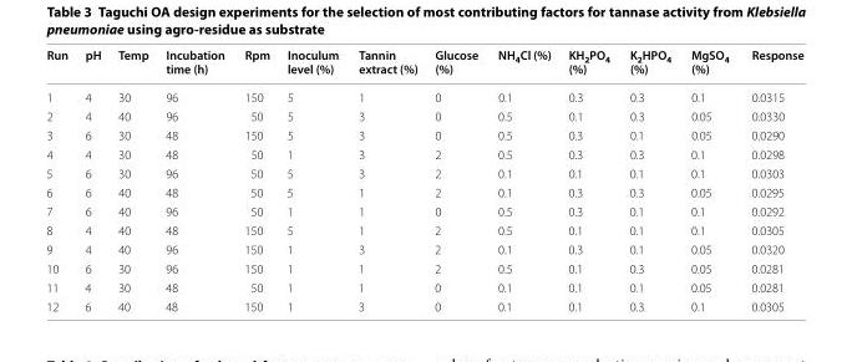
<table><thead><tr><td>Run</td><td>pH</td><td>Temp</td><td>Incubation time (h)</td><td>Rpm</td><td>Inoculum level (%)</td><td>Tannin extract (%)</td><td>Glucose (%)</td><td>NH<sub>4</sub>Cl (%)</td><td>KH<sub>2</sub>PO<sub>4</sub> (%)</td><td>K<sub>2</sub>HPO<sub>4</sub> (%)</td><td>MgSO<sub>4</sub> (%)</td><td>Response</td></tr></thead><tbody><tr><td>1</td><td>4</td><td>30</td><td>96</td><td>150</td><td>5</td><td>1</td><td>0</td><td>0.1</td><td>0.3</td><td>0.3</td><td>0.1</td><td>0.0315</td></tr><tr><td>2</td><td>4</td><td>40</td><td>96</td><td>50</td><td>5</td><td>3</td><td>0</td><td>0.5</td><td>0.1</td><td>0.3</td><td>0.05</td><td>0.0330</td></tr><tr><td>3</td><td>6</td><td>30</td><td>48</td><td>150</td><td>5</td><td>3</td><td>0</td><td>0.5</td><td>0.3</td><td>0.1</td><td>0.05</td><td>0.0290</td></tr><tr><td>4</td><td>4</td><td>30</td><td>48</td><td>50</td><td>1</td><td>3</td><td>2</td><td>0.5</td><td>0.3</td><td>0.3</td><td>0.1</td><td>0.0298</td></tr><tr><td>5</td><td>6</td><td>30</td><td>96</td><td>50</td><td>5</td><td>3</td><td>2</td><td>0.1</td><td>0.1</td><td>0.1</td><td>0.1</td><td>0.0303</td></tr><tr><td>6</td><td>6</td><td>40</td><td>48</td><td>50</td><td>5</td><td>1</td><td>2</td><td>0.1</td><td>0.3</td><td>0.3</td><td>0.05</td><td>0.0295</td></tr><tr><td>7</td><td>6</td><td>40</td><td>96</td><td>50</td><td>1</td><td>1</td><td>0</td><td>0.5</td><td>0.3</td><td>0.1</td><td>0.1</td><td>0.0292</td></tr><tr><td>8</td><td>4</td><td>40</td><td>48</td><td>150</td><td>5</td><td>1</td><td>2</td><td>0.5</td><td>0.1</td><td>0.1</td><td>0.1</td><td>0.0305</td></tr><tr><td>9</td><td>4</td><td>40</td><td>96</td><td>150</td><td>1</td><td>3</td><td>2</td><td>0.1</td><td>0.3</td><td>0.1</td><td>0.05</td><td>0.0320</td></tr><tr><td>10</td><td>6</td><td>30</td><td>96</td><td>150</td><td>1</td><td>1</td><td>2</td><td>0.5</td><td>0.1</td><td>0.3</td><td>0.05</td><td>0.0281</td></tr><tr><td>11</td><td>4</td><td>30</td><td>48</td><td>50</td><td>1</td><td>1</td><td>0</td><td>0.1</td><td>0.1</td><td>0.1</td><td>0.05</td><td>0.0281</td></tr><tr><td>12</td><td>6</td><td>40</td><td>48</td><td>150</td><td>1</td><td>3</td><td>0</td><td>0.1</td><td>0.1</td><td>0.3</td><td>0.1</td><td>0.0305</td></tr></tbody></table>